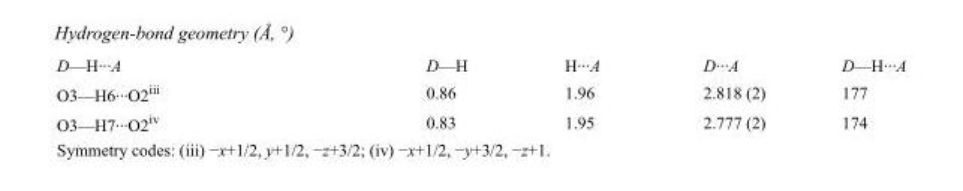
<table><tbody><tr><td>D—H···A</td><td>D—H</td><td>H···A</td><td>D···A</td><td>D—H···A</td></tr><tr><td>O3—H6···O2<sup>iii</sup></td><td>0.86</td><td>1.96</td><td>2.818 (2)</td><td>177</td></tr><tr><td>O3—H7···O2<sup>iv</sup></td><td>0.83</td><td>1.95</td><td>2.777 (2)</td><td>174</td></tr></tbody></table>